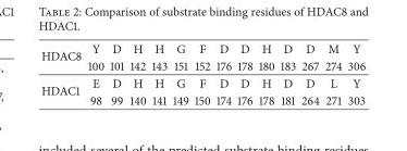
<table><tbody><tr><td rowspan="2">HDAC8</td><td>Y</td><td>D</td><td>H</td><td>H</td><td>G</td><td>F</td><td>D</td><td>D</td><td>H</td><td>D</td><td>D</td><td>M</td><td>Y</td></tr><tr><td>100</td><td>101</td><td>142</td><td>143</td><td>151</td><td>152</td><td>176</td><td>178</td><td>180</td><td>183</td><td>267</td><td>274</td><td>306</td></tr><tr><td rowspan="2">HDAC1</td><td>E</td><td>D</td><td>H</td><td>H</td><td>G</td><td>F</td><td>D</td><td>D</td><td>H</td><td>D</td><td>D</td><td>L</td><td>Y</td></tr><tr><td>98</td><td>99</td><td>140</td><td>141</td><td>149</td><td>150</td><td>174</td><td>176</td><td>178</td><td>181</td><td>264</td><td>271</td><td>303</td></tr></tbody></table>